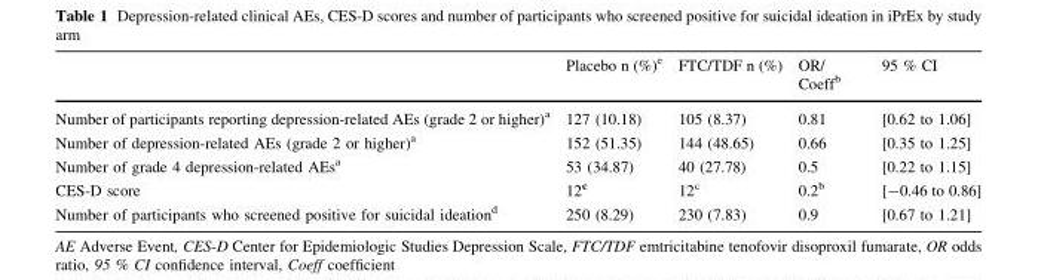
<table><thead><tr><td></td><td>Placebo n (%)<sup>e</sup></td><td>FTC/TDF n (%)</td><td>OR/ Coeff<sup>b</sup></td><td>95 % CI</td></tr></thead><tbody><tr><td>Number of participants reporting depression-related AEs (grade 2 or higher)<sup>a</sup></td><td>127 (10.18)</td><td>105 (8.37)</td><td>0.81</td><td>[0.62 to 1.06]</td></tr><tr><td>Number of depression-related AEs (grade 2 or higher)<sup>a</sup></td><td>152 (51.35)</td><td>144 (48.65)</td><td>0.66</td><td>[0.35 to 1.25]</td></tr><tr><td>Number of grade 4 depression-related AEs<sup>a</sup></td><td>53 (34.87)</td><td>40 (27.78)</td><td>0.5</td><td>[0.22 to 1.15]</td></tr><tr><td>CES-D score</td><td>12<sup>c</sup></td><td>12<sup>c</sup></td><td>0.2<sup>b</sup></td><td>[-0.46 to 0.86]</td></tr><tr><td>Number of participants who screened positive for suicidal ideation<sup>d</sup></td><td>250 (8.29)</td><td>230 (7.83)</td><td>0.9</td><td>[0.67 to 1.21]</td></tr></tbody></table>